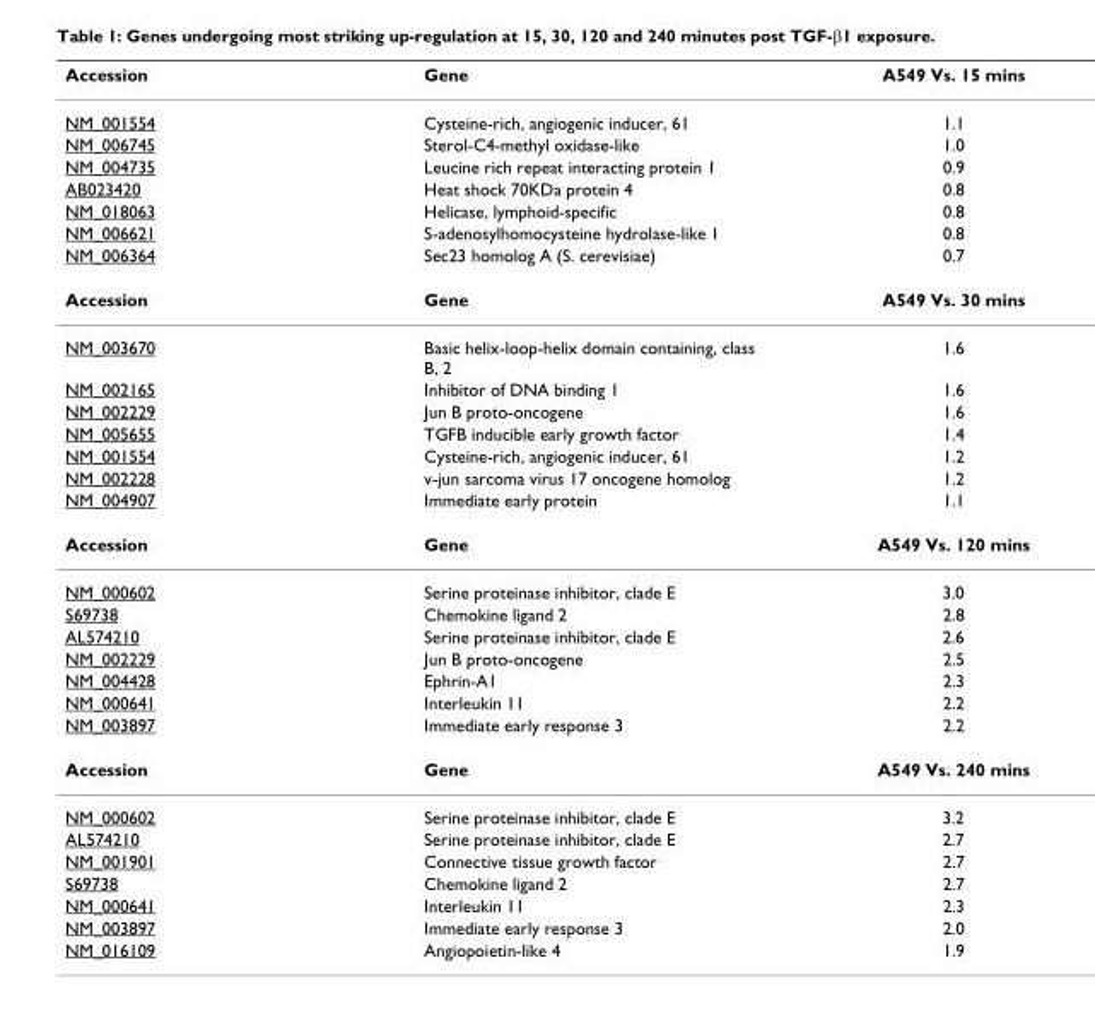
<table><thead><tr><td>Accession</td><td>Gene</td><td>A549 Vs. 15 mins</td></tr></thead><tbody><tr><td>NM_001554</td><td>Cysteine-rich, angiogenic inducer, 61</td><td>1.1</td></tr><tr><td>NM_006745</td><td>Sterol-C4-methyl oxidase-like</td><td>1.0</td></tr><tr><td>NM_004735</td><td>Leucine rich repeat interacting protein 1</td><td>0.9</td></tr><tr><td>AB023420</td><td>Heat shock 70KDa protein 4</td><td>0.8</td></tr><tr><td>NM_018063</td><td>Helicase, lymphoid-specific</td><td>0.8</td></tr><tr><td>NM_006621</td><td>S-adenosylhomocysteine hydrolase-like 1</td><td>0.8</td></tr><tr><td>NM_006364</td><td>Sec23 homolog A (S. cerevisiae)</td><td>0.7</td></tr><tr><td>Accession</td><td>Gene</td><td>A549 Vs. 30 mins</td></tr><tr><td>NM_003670</td><td>Basic helix-loop-helix domain containing, class B, 2</td><td>1.6</td></tr><tr><td>NM_002165</td><td>Inhibitor of DNA binding 1</td><td>1.6</td></tr><tr><td>NM_002229</td><td>Jun B proto-oncogene</td><td>1.6</td></tr><tr><td>NM_005655</td><td>TGFB inducible early growth factor</td><td>1.4</td></tr><tr><td>NM_001554</td><td>Cysteine-rich, angiogenic inducer, 61</td><td>1.2</td></tr><tr><td>NM_002228</td><td>v-jun sarcoma virus 17 oncogene homolog</td><td>1.2</td></tr><tr><td>NM_004907</td><td>Immediate early protein</td><td>1.1</td></tr><tr><td>Accession</td><td>Gene</td><td>A549 Vs. 120 mins</td></tr><tr><td>NM_000602</td><td>Serine proteinase inhibitor, clade E</td><td>3.0</td></tr><tr><td>S69738</td><td>Chemokine ligand 2</td><td>2.8</td></tr><tr><td>AL574210</td><td>Serine proteinase inhibitor, clade E</td><td>2.6</td></tr><tr><td>NM_002229</td><td>Jun B proto-oncogene</td><td>2.5</td></tr><tr><td>NM_004428</td><td>Ephrin-A1</td><td>2.3</td></tr><tr><td>NM_000641</td><td>Interleukin 11</td><td>2.2</td></tr><tr><td>NM_003897</td><td>Immediate early response 3</td><td>2.2</td></tr><tr><td>Accession</td><td>Gene</td><td>A549 Vs. 240 mins</td></tr><tr><td>NM_000602</td><td>Serine proteinase inhibitor, clade E</td><td>3.2</td></tr><tr><td>AL574210</td><td>Serine proteinase inhibitor, clade E</td><td>2.7</td></tr><tr><td>NM_001901</td><td>Connective tissue growth factor</td><td>2.7</td></tr><tr><td>S69738</td><td>Chemokine ligand 2</td><td>2.7</td></tr><tr><td>NM_000641</td><td>Interleukin 11</td><td>2.3</td></tr><tr><td>NM_003897</td><td>Immediate early response 3</td><td>2.0</td></tr><tr><td>NM_016109</td><td>Angiopoietin-like 4</td><td>1.9</td></tr></tbody></table>